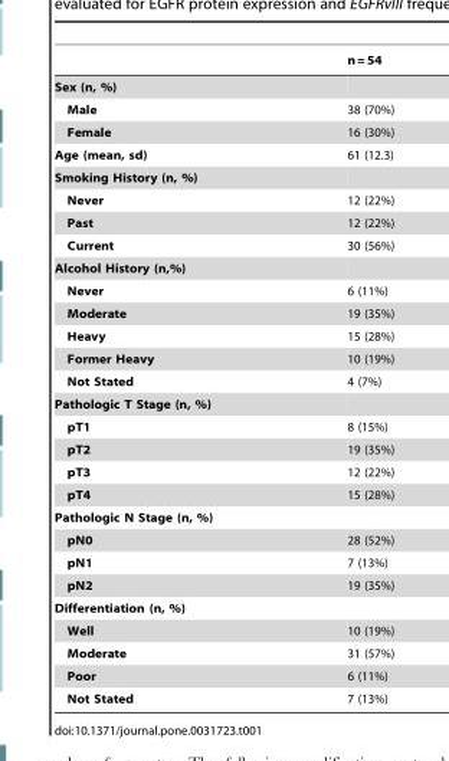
<table><thead><tr><td></td><td>n = 54</td></tr></thead><tbody><tr><td colspan="2">Sex (n, %)</td></tr><tr><td>Male</td><td>38 (70%)</td></tr><tr><td>Female</td><td>16 (30%)</td></tr><tr><td>Age (mean, sd)</td><td>61 (12.3)</td></tr><tr><td colspan="2">Smoking History (n, %)</td></tr><tr><td>Never</td><td>12 (22%)</td></tr><tr><td>Past</td><td>12 (22%)</td></tr><tr><td>Current</td><td>30 (56%)</td></tr><tr><td colspan="2">Alcohol History (n,%)</td></tr><tr><td>Never</td><td>6 (11%)</td></tr><tr><td>Moderate</td><td>19 (35%)</td></tr><tr><td>Heavy</td><td>15 (28%)</td></tr><tr><td>Former Heavy</td><td>10 (19%)</td></tr><tr><td>Not Stated</td><td>4 (7%)</td></tr><tr><td colspan="2">Pathologic T Stage (n, %)</td></tr><tr><td>pT1</td><td>8 (15%)</td></tr><tr><td>pT2</td><td>19 (35%)</td></tr><tr><td>pT3</td><td>12 (22%)</td></tr><tr><td>pT4</td><td>15 (28%)</td></tr><tr><td colspan="2">Pathologic N Stage (n, %)</td></tr><tr><td>pN0</td><td>28 (52%)</td></tr><tr><td>pN1</td><td>7 (13%)</td></tr><tr><td>pN2</td><td>19 (35%)</td></tr><tr><td colspan="2">Differentiation (n, %)</td></tr><tr><td>Well</td><td>10 (19%)</td></tr><tr><td>Moderate</td><td>31 (57%)</td></tr><tr><td>Poor</td><td>6 (11%)</td></tr><tr><td>Not Stated</td><td>7 (13%)</td></tr></tbody></table>